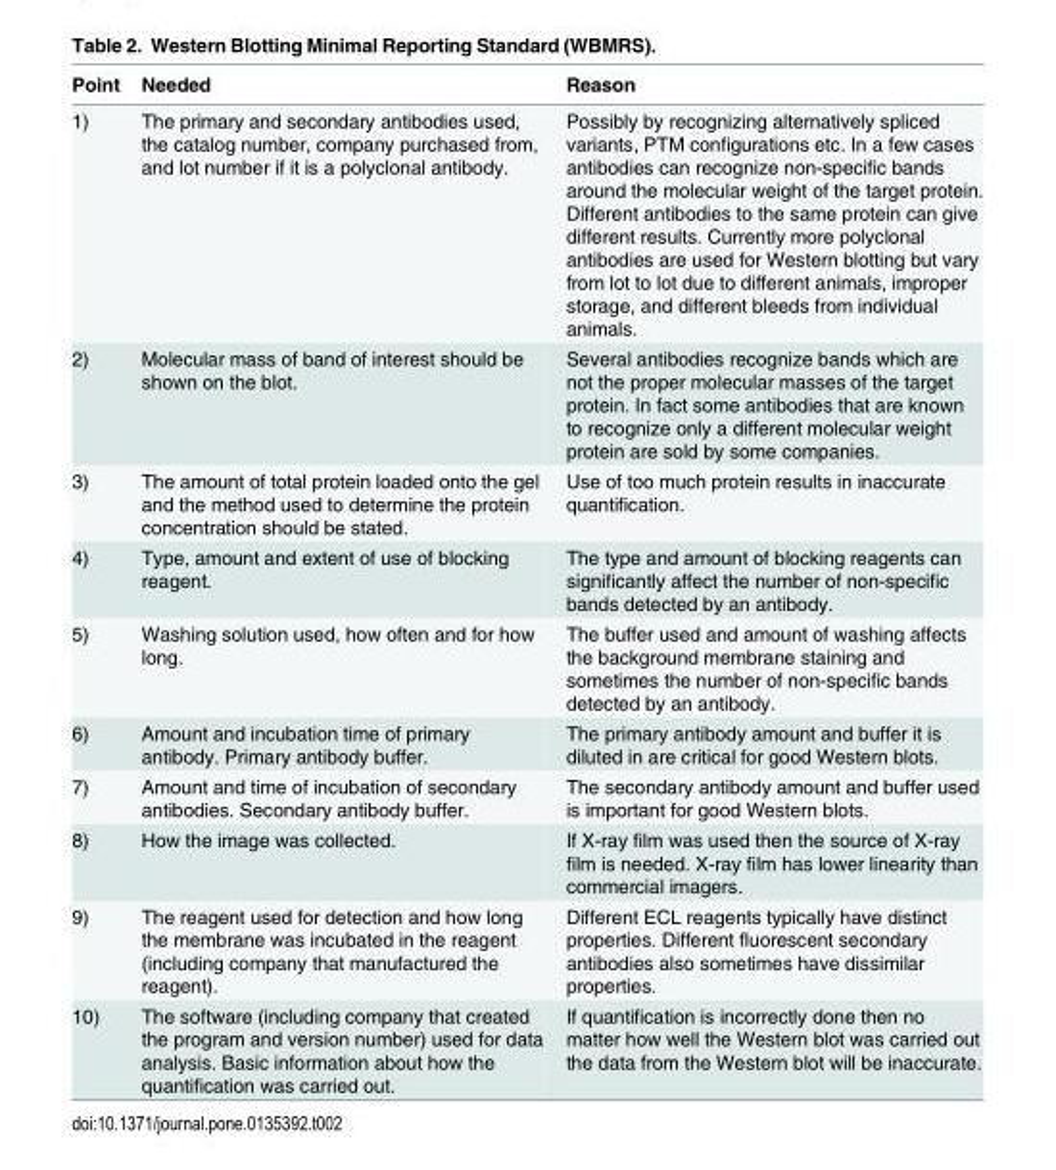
<table><thead><tr><td>Point</td><td>Needed</td><td>Reason</td></tr></thead><tbody><tr><td>1)</td><td>The primary and secondary antibodies used, the catalog number, company purchased from, and lot number if it is a polyclonal antibody.</td><td>Possibly by recognizing alternatively spliced variants, PTM configurations etc. In a few cases antibodies can recognize non-specific bands around the molecular weight of the target protein. Different antibodies to the same protein can give different results. Currently more polyclonal antibodies are used for Western blotting but vary from lot to lot due to different animals, improper storage, and different bleeds from individual animals.</td></tr><tr><td>2)</td><td>Molecular mass of band of interest should be shown on the blot.</td><td>Several antibodies recognize bands which are not the proper molecular masses of the target protein. In fact some antibodies that are known to recognize only a different molecular weight protein are sold by some companies.</td></tr><tr><td>3)</td><td>The amount of total protein loaded onto the gel and the method used to determine the protein concentration should be stated.</td><td>Use of too much protein results in inaccurate quantification.</td></tr><tr><td>4)</td><td>Type, amount and extent of use of blocking reagent.</td><td>The type and amount of blocking reagents can significantly affect the number of non-specific bands detected by an antibody.</td></tr><tr><td>5)</td><td>Washing solution used, how often and for how long.</td><td>The buffer used and amount of washing affects the background membrane staining and sometimes the number of non-specific bands detected by an antibody.</td></tr><tr><td>6)</td><td>Amount and incubation time of primary antibody. Primary antibody buffer.</td><td>The primary antibody amount and buffer it is diluted in are critical for good Western blots.</td></tr><tr><td>7)</td><td>Amount and time of incubation of secondary antibodies. Secondary antibody buffer.</td><td>The secondary antibody amount and buffer used is important for good Western blots.</td></tr><tr><td>8)</td><td>How the image was collected.</td><td>If X-ray film was used then the source of X-ray film is needed. X-ray film has lower linearity than commercial imagers.</td></tr><tr><td>9)</td><td>The reagent used for detection and how long the membrane was incubated in the reagent (including company that manufactured the reagent).</td><td>Different ECL reagents typically have distinct properties. Different fluorescent secondary antibodies also sometimes have dissimilar properties.</td></tr><tr><td>10)</td><td>The software (including company that created the program and version number) used for data analysis. Basic information about how the quantification was carried out.</td><td>If quantification is incorrectly done then no matter how well the Western blot was carried out the data from the Western blot will be inaccurate.</td></tr></tbody></table>